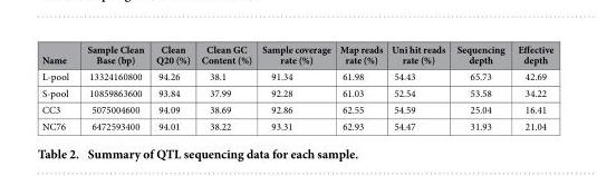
<table><thead><tr><td>Name</td><td>Sample Clean Base (bp)</td><td>Clean Q20 (%)</td><td>Clean GC Content (%)</td><td>Sample coverage rate (%)</td><td>Map reads rate (%)</td><td>Uni hit reads rate (%)</td><td>Sequencing depth</td><td>Effective depth</td></tr></thead><tbody><tr><td>L-pool</td><td>13324160800</td><td>94.26</td><td>38.1</td><td>91.34</td><td>61.98</td><td>54.43</td><td>65.73</td><td>42.69</td></tr><tr><td>S-pool</td><td>10859863600</td><td>93.84</td><td>37.99</td><td>92.28</td><td>61.03</td><td>52.54</td><td>53.58</td><td>34.22</td></tr><tr><td>CC3</td><td>5075004600</td><td>94.09</td><td>38.69</td><td>92.86</td><td>62.55</td><td>54.59</td><td>25.04</td><td>16.41</td></tr><tr><td>NC76</td><td>6472593400</td><td>94.01</td><td>38.22</td><td>93.31</td><td>62.93</td><td>54.47</td><td>31.93</td><td>21.04</td></tr></tbody></table>